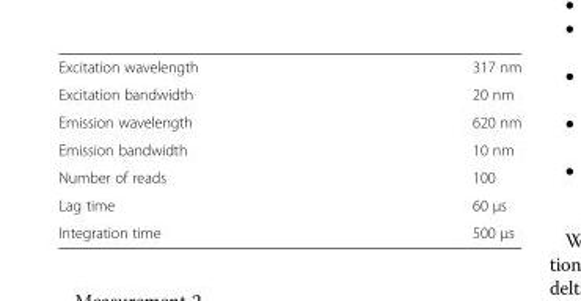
<table><tbody><tr><td>Excitation wavelength</td><td>317 nm</td></tr><tr><td>Excitation bandwidth</td><td>20 nm</td></tr><tr><td>Emission wavelength</td><td>620 nm</td></tr><tr><td>Emission bandwidth</td><td>10 nm</td></tr><tr><td>Number of reads</td><td>100</td></tr><tr><td>Lag time</td><td>60 μs</td></tr><tr><td>Integration time</td><td>500 μs</td></tr></tbody></table>